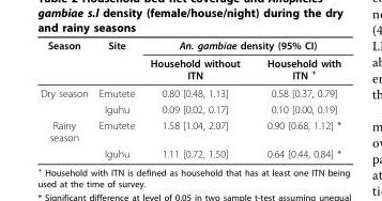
<table><thead><tr><td rowspan="2">Season</td><td rowspan="2">Site</td><td colspan="2">An. gambiae density (95% CI)</td></tr><tr><td>Household without ITN</td><td>Household with ITN <sup>+</sup></td></tr></thead><tbody><tr><td rowspan="2">Dry season</td><td>Emutete</td><td>0.80 [0.48, 1.13]</td><td>0.58 [0.37, 0.79]</td></tr><tr><td>Iguhu</td><td>0.09 [0.02, 0.17]</td><td>0.10 [0.00, 0.19]</td></tr><tr><td rowspan="2">Rainy season</td><td>Emutete</td><td>1.58 [1.04, 2.07]</td><td>0.90 [0.68, 1.12] *</td></tr><tr><td>Iguhu</td><td>1.11 [0.72, 1.50]</td><td>0.64 [0.44, 0.84] *</td></tr></tbody></table>